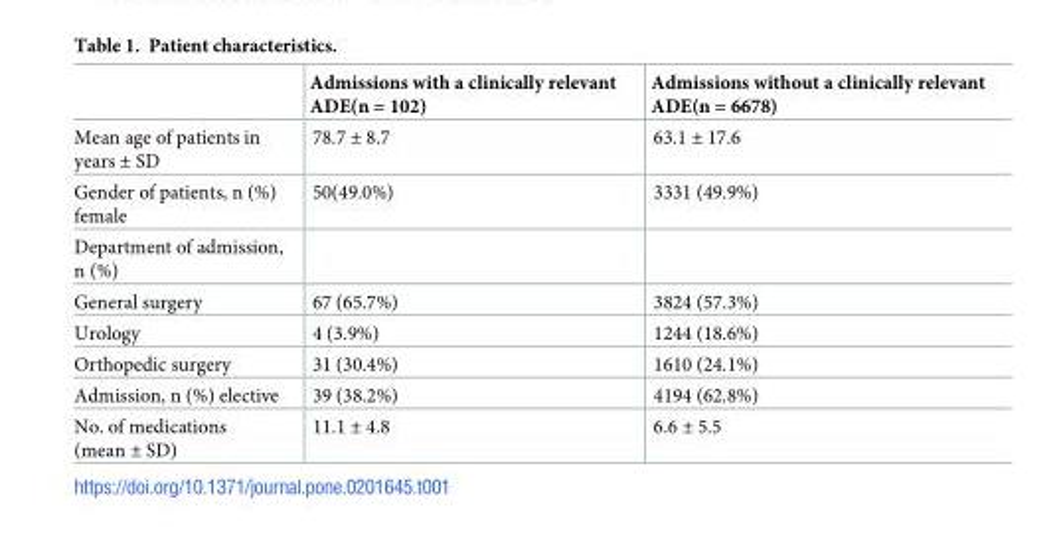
<table><thead><tr><td></td><td>Admissions with a clinically relevant ADE(n = 102)</td><td>Admissions without a clinically relevant ADE(n = 6678)</td></tr></thead><tbody><tr><td>Mean age of patients in years ± SD</td><td>78.7 ± 8.7</td><td>63.1 ± 17.6</td></tr><tr><td>Gender of patients, n (%) female</td><td>50(49.0%)</td><td>3331 (49.9%)</td></tr><tr><td colspan="3">Department of admission, n (%)</td></tr><tr><td>General surgery</td><td>67 (65.7%)</td><td>3824 (57.3%)</td></tr><tr><td>Urology</td><td>4 (3.9%)</td><td>1244 (18.6%)</td></tr><tr><td>Orthopedic surgery</td><td>31 (30.4%)</td><td>1610 (24.1%)</td></tr><tr><td>Admission, n (%) elective</td><td>39 (38.2%)</td><td>4194 (62.8%)</td></tr><tr><td>No. of medications (mean ± SD)</td><td>11.1 ± 4.8</td><td>6.6 ± 5.5</td></tr></tbody></table>